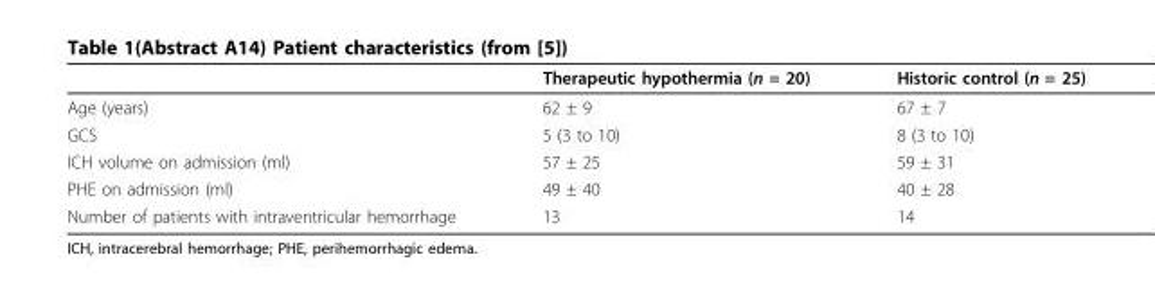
<table><thead><tr><td></td><td>Therapeutic hypothermia (n = 20)</td><td>Historic control (n = 25)</td></tr></thead><tbody><tr><td>Age (years)</td><td>62 ± 9</td><td>67 ± 7</td></tr><tr><td>GCS</td><td>5 (3 to 10)</td><td>8 (3 to 10)</td></tr><tr><td>ICH volume on admission (ml)</td><td>57 ± 25</td><td>59 ± 31</td></tr><tr><td>PHE on admission (ml)</td><td>49 ± 40</td><td>40 ± 28</td></tr><tr><td>Number of patients with intraventricular hemorrhage</td><td>13</td><td>14</td></tr></tbody></table>